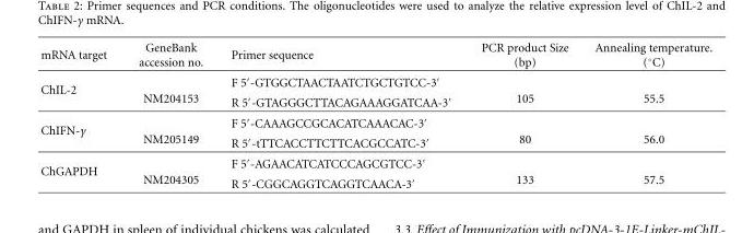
<table><thead><tr><td>mRNA target</td><td>GeneBank accession no.</td><td>Primer sequence</td><td>PCR product Size (bp)</td><td>Annealing temperature. (◦C)</td></tr></thead><tbody><tr><td rowspan="2">ChIL-2</td><td rowspan="2">NM204153</td><td>F 5′-GTGGCTAACTAATCTGCTGTCC-3′</td><td rowspan="2">105</td><td rowspan="2">55.5</td></tr><tr><td>R 5′-GTAGGGCTTACAGAAAGGATCAA-3′</td></tr><tr><td rowspan="2">ChIFN-γ</td><td rowspan="2">NM205149</td><td>F 5′-CAAAGCCGCACATCAAACAC-3′</td><td rowspan="2">80</td><td rowspan="2">56.0</td></tr><tr><td>R 5′-tTTCACCTTCTTCACGCCATC-3′</td></tr><tr><td rowspan="2">ChGAPDH</td><td rowspan="2">NM204305</td><td>F 5′-AGAACATCATCCCAGCGTCC-3′</td><td rowspan="2">133</td><td rowspan="2">57.5</td></tr><tr><td>R 5′-CGGCAGGTCAGGTCAACA-3′</td></tr></tbody></table>